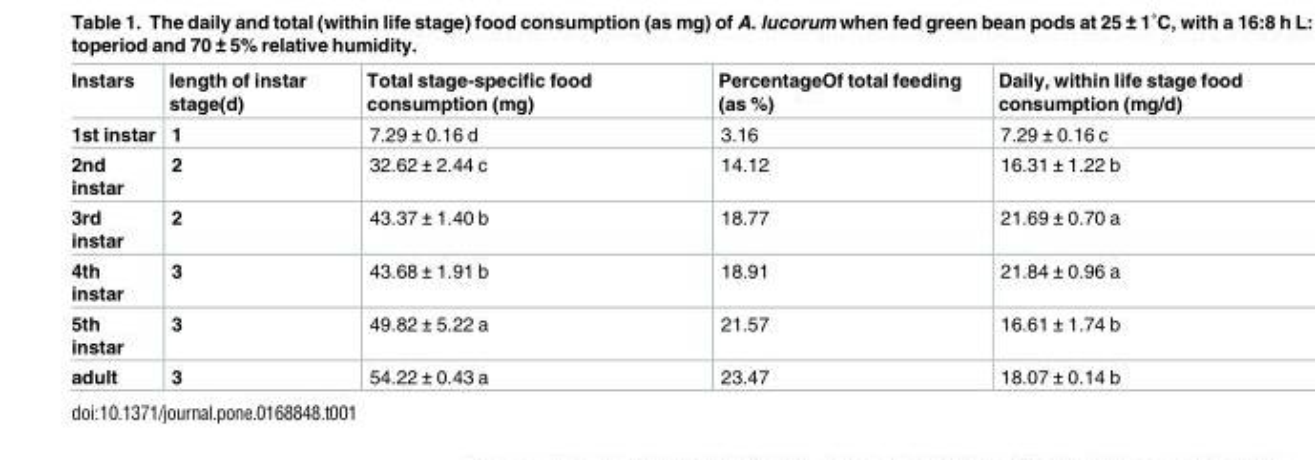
<table><thead><tr><td>Instars</td><td>length of instar stage(d)</td><td>Total stage-specific food consumption (mg)</td><td>PercentageOf total feeding (as %)</td><td>Daily, within life stage food consumption (mg/d)</td></tr></thead><tbody><tr><td>1st instar</td><td>1</td><td>7.29 ± 0.16 d</td><td>3.16</td><td>7.29 ± 0.16 c</td></tr><tr><td>2nd instar</td><td>2</td><td>32.62 ± 2.44 c</td><td>14.12</td><td>16.31 ± 1.22 b</td></tr><tr><td>3rd instar</td><td>2</td><td>43.37 ± 1.40 b</td><td>18.77</td><td>21.69 ± 0.70 a</td></tr><tr><td>4th instar</td><td>3</td><td>43.68 ± 1.91 b</td><td>18.91</td><td>21.84 ± 0.96 a</td></tr><tr><td>5th instar</td><td>3</td><td>49.82 ± 5.22 a</td><td>21.57</td><td>16.61 ± 1.74 b</td></tr><tr><td>adult</td><td>3</td><td>54.22 ± 0.43 a</td><td>23.47</td><td>18.07 ± 0.14 b</td></tr></tbody></table>